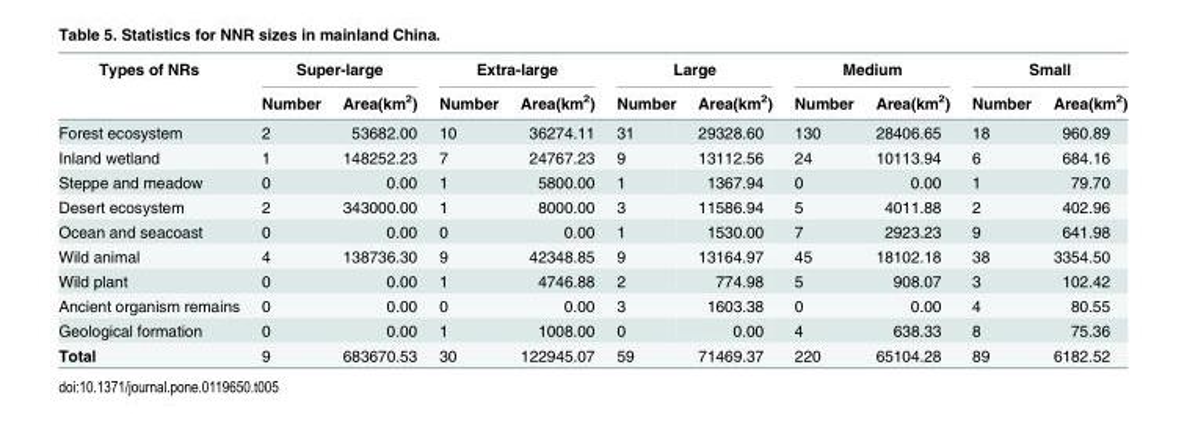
<table><thead><tr><td rowspan="2">Types of NRs</td><td colspan="2">Super-large</td><td colspan="2">Extra-large</td><td colspan="2">Large</td><td colspan="2">Medium</td><td colspan="2">Small</td></tr><tr><td>Number</td><td>Area(km<sup>2</sup>)</td><td>Number</td><td>Area(km<sup>2</sup>)</td><td>Number</td><td>Area(km<sup>2</sup>)</td><td>Number</td><td>Area(km<sup>2</sup>)</td><td>Number</td><td>Area(km<sup>2</sup>)</td></tr></thead><tbody><tr><td>Forest ecosystem</td><td>2</td><td>53682.00</td><td>10</td><td>36274.11</td><td>31</td><td>29328.60</td><td>130</td><td>28406.65</td><td>18</td><td>960.89</td></tr><tr><td>Inland wetland</td><td>1</td><td>148252.23</td><td>7</td><td>24767.23</td><td>9</td><td>13112.56</td><td>24</td><td>10113.94</td><td>6</td><td>684.16</td></tr><tr><td>Steppe and meadow</td><td>0</td><td>0.00</td><td>1</td><td>5800.00</td><td>1</td><td>1367.94</td><td>0</td><td>0.00</td><td>1</td><td>79.70</td></tr><tr><td>Desert ecosystem</td><td>2</td><td>343000.00</td><td>1</td><td>8000.00</td><td>3</td><td>11586.94</td><td>5</td><td>4011.88</td><td>2</td><td>402.96</td></tr><tr><td>Ocean and seacoast</td><td>0</td><td>0.00</td><td>0</td><td>0.00</td><td>1</td><td>1530.00</td><td>7</td><td>2923.23</td><td>9</td><td>641.98</td></tr><tr><td>Wild animal</td><td>4</td><td>138736.30</td><td>9</td><td>42348.85</td><td>9</td><td>13164.97</td><td>45</td><td>18102.18</td><td>38</td><td>3354.50</td></tr><tr><td>Wild plant</td><td>0</td><td>0.00</td><td>1</td><td>4746.88</td><td>2</td><td>774.98</td><td>5</td><td>908.07</td><td>3</td><td>102.42</td></tr><tr><td>Ancient organism remains</td><td>0</td><td>0.00</td><td>0</td><td>0.00</td><td>3</td><td>1603.38</td><td>0</td><td>0.00</td><td>4</td><td>80.55</td></tr><tr><td>Geological formation</td><td>0</td><td>0.00</td><td>1</td><td>1008.00</td><td>0</td><td>0.00</td><td>4</td><td>638.33</td><td>8</td><td>75.36</td></tr><tr><td>Total</td><td>9</td><td>683670.53</td><td>30</td><td>122945.07</td><td>59</td><td>71469.37</td><td>220</td><td>65104.28</td><td>89</td><td>6182.52</td></tr></tbody></table>